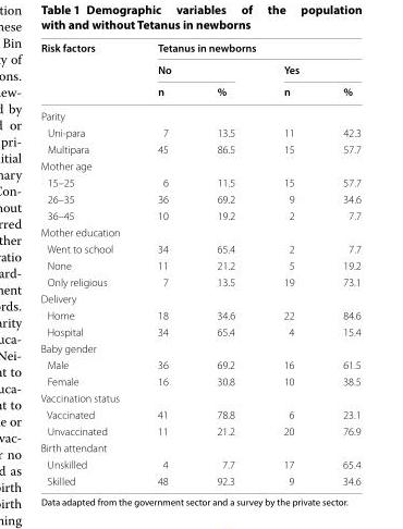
<table><thead><tr><td rowspan="3">Risk factors</td><td colspan="4">Tetanus in newborns</td></tr><tr><td colspan="2">No</td><td colspan="2">Yes</td></tr><tr><td>n</td><td>%</td><td>n</td><td>%</td></tr></thead><tbody><tr><td colspan="5">Parity</td></tr><tr><td>Uni-para</td><td>7</td><td>13.5</td><td>11</td><td>42.3</td></tr><tr><td>Multipara</td><td>45</td><td>86.5</td><td>15</td><td>57.7</td></tr><tr><td colspan="5">Mother age</td></tr><tr><td>15–25</td><td>6</td><td>11.5</td><td>15</td><td>57.7</td></tr><tr><td>26–35</td><td>36</td><td>69.2</td><td>9</td><td>34.6</td></tr><tr><td>36–45</td><td>10</td><td>19.2</td><td>2</td><td>7.7</td></tr><tr><td colspan="5">Mother education</td></tr><tr><td>Went to school</td><td>34</td><td>65.4</td><td>2</td><td>7.7</td></tr><tr><td>None</td><td>11</td><td>21.2</td><td>5</td><td>19.2</td></tr><tr><td>Only religious</td><td>7</td><td>13.5</td><td>19</td><td>73.1</td></tr><tr><td colspan="5">Delivery</td></tr><tr><td>Home</td><td>18</td><td>34.6</td><td>22</td><td>84.6</td></tr><tr><td>Hospital</td><td>34</td><td>65.4</td><td>4</td><td>15.4</td></tr><tr><td colspan="5">Baby gender</td></tr><tr><td>Male</td><td>36</td><td>69.2</td><td>16</td><td>61.5</td></tr><tr><td>Female</td><td>16</td><td>30.8</td><td>10</td><td>38.5</td></tr><tr><td colspan="5">Vaccination status</td></tr><tr><td>Vaccinated</td><td>41</td><td>78.8</td><td>6</td><td>23.1</td></tr><tr><td>Unvaccinated</td><td>11</td><td>21.2</td><td>20</td><td>76.9</td></tr><tr><td colspan="5">Birth attendant</td></tr><tr><td>Unskilled</td><td>4</td><td>7.7</td><td>17</td><td>65.4</td></tr><tr><td>Skilled</td><td>48</td><td>92.3</td><td>9</td><td>34.6</td></tr></tbody></table>